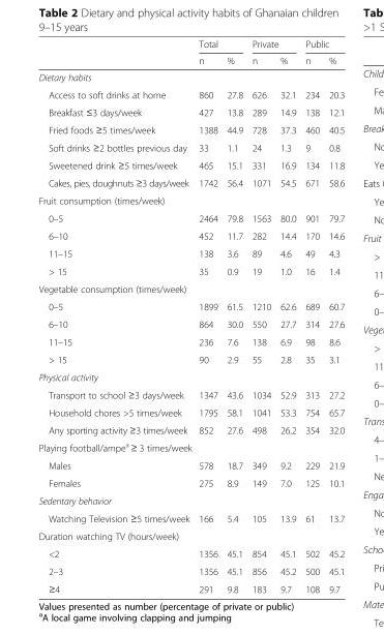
<table><thead><tr><td rowspan="2"></td><td colspan="2">Total</td><td colspan="2">Private</td><td colspan="2">Public</td></tr><tr><td>n</td><td>%</td><td>n</td><td>%</td><td>n</td><td>%</td></tr></thead><tbody><tr><td colspan="7">Dietary habits</td></tr><tr><td>Access to soft drinks at home</td><td>860</td><td>27.8</td><td>626</td><td>32.1</td><td>234</td><td>20.3</td></tr><tr><td>Breakfast ≤3 days/week</td><td>427</td><td>13.8</td><td>289</td><td>14.9</td><td>138</td><td>12.1</td></tr><tr><td>Fried foods ≥5 times/week</td><td>1388</td><td>44.9</td><td>728</td><td>37.3</td><td>460</td><td>40.5</td></tr><tr><td>Soft drinks ≥2 bottles previous day</td><td>33</td><td>1.1</td><td>24</td><td>1.3</td><td>9</td><td>0.8</td></tr><tr><td>Sweetened drink ≥5 times/week</td><td>465</td><td>15.1</td><td>331</td><td>16.9</td><td>134</td><td>11.8</td></tr><tr><td>Cakes, pies, doughnuts ≥3 days/week</td><td>1742</td><td>56.4</td><td>1071</td><td>54.5</td><td>671</td><td>58.6</td></tr><tr><td colspan="7">Fruit consumption (times/week)</td></tr><tr><td>0–5</td><td>2464</td><td>79.8</td><td>1563</td><td>80.0</td><td>901</td><td>79.7</td></tr><tr><td>6–10</td><td>452</td><td>11.7</td><td>282</td><td>14.4</td><td>170</td><td>14.6</td></tr><tr><td>11–15</td><td>138</td><td>3.6</td><td>89</td><td>4.6</td><td>49</td><td>4.3</td></tr><tr><td>&gt; 15</td><td>35</td><td>0.9</td><td>19</td><td>1.0</td><td>16</td><td>1.4</td></tr><tr><td colspan="7">Vegetable consumption (times/week)</td></tr><tr><td>0–5</td><td>1899</td><td>61.5</td><td>1210</td><td>62.6</td><td>689</td><td>60.7</td></tr><tr><td>6–10</td><td>864</td><td>30.0</td><td>550</td><td>27.7</td><td>314</td><td>27.6</td></tr><tr><td>11–15</td><td>236</td><td>7.6</td><td>138</td><td>6.9</td><td>98</td><td>8.6</td></tr><tr><td>&gt; 15</td><td>90</td><td>2.9</td><td>55</td><td>2.8</td><td>35</td><td>3.1</td></tr><tr><td colspan="7">Physical activity</td></tr><tr><td>Transport to school ≥3 days/week</td><td>1347</td><td>43.6</td><td>1034</td><td>52.9</td><td>313</td><td>27.2</td></tr><tr><td>Household chores &gt;5 times/week</td><td>1795</td><td>58.1</td><td>1041</td><td>53.3</td><td>754</td><td>65.7</td></tr><tr><td>Any sporting activity ≥3 times/week</td><td>852</td><td>27.6</td><td>498</td><td>26.2</td><td>354</td><td>32.0</td></tr><tr><td colspan="7">Playing football/ampe<sup>a</sup> ≥ 3 times/week</td></tr><tr><td>Males</td><td>578</td><td>18.7</td><td>349</td><td>9.2</td><td>229</td><td>21.9</td></tr><tr><td>Females</td><td>275</td><td>8.9</td><td>149</td><td>7.0</td><td>125</td><td>10.1</td></tr><tr><td colspan="7">Sedentary behavior</td></tr><tr><td>Watching Television ≥5 times/week</td><td>166</td><td>5.4</td><td>105</td><td>13.9</td><td>61</td><td>13.7</td></tr><tr><td colspan="7">Duration watching TV (hours/week)</td></tr><tr><td>&lt;2</td><td>1356</td><td>45.1</td><td>854</td><td>45.1</td><td>502</td><td>45.2</td></tr><tr><td>2–3</td><td>1356</td><td>45.1</td><td>856</td><td>45.2</td><td>500</td><td>45.1</td></tr><tr><td>≥4</td><td>291</td><td>9.8</td><td>183</td><td>9.7</td><td>108</td><td>9.7</td></tr></tbody></table>